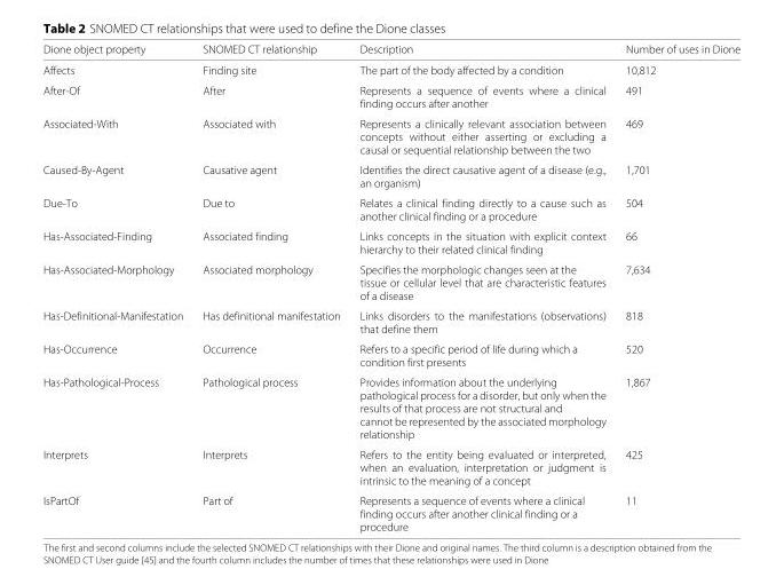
<table><thead><tr><td>Dione object property</td><td>SNOMED CT relationship</td><td>Description</td><td>Number of uses in Dione</td></tr></thead><tbody><tr><td>Affects</td><td>Finding site</td><td>The part of the body affected by a condition</td><td>10,812</td></tr><tr><td>After-Of</td><td>After</td><td>Represents a sequence of events where a clinical finding occurs after another</td><td>491</td></tr><tr><td>Associated-With</td><td>Associated with</td><td>Represents a clinically relevant association between concepts without either asserting or excluding a causal or sequential relationship between the two</td><td>469</td></tr><tr><td>Caused-By-Agent</td><td>Causative agent</td><td>Identifies the direct causative agent of a disease (e.g., an organism)</td><td>1,701</td></tr><tr><td>Due-To</td><td>Due to</td><td>Relates a clinical finding directly to a cause such as another clinical finding or a procedure</td><td>504</td></tr><tr><td>Has-Associated-Finding</td><td>Associated finding</td><td>Links concepts in the situation with explicit context hierarchy to their related clinical finding</td><td>66</td></tr><tr><td>Has-Associated-Morphology</td><td>Associated morphology</td><td>Specifies the morphologic changes seen at the tissue or cellular level that are characteristic features of a disease</td><td>7,634</td></tr><tr><td>Has-Definitional-Manifestation</td><td>Has definitional manifestation</td><td>Links disorders to the manifestations (observations) that define them</td><td>818</td></tr><tr><td>Has-Occurrence</td><td>Occurrence</td><td>Refers to a specific period of life during which a condition first presents</td><td>520</td></tr><tr><td>Has-Pathological-Process</td><td>Pathological process</td><td>Provides information about the underlying pathological process for a disorder, but only when the results of that process are not structural and cannot be represented by the associated morphology relationship</td><td>1,867</td></tr><tr><td>Interprets</td><td>Interprets</td><td>Refers to the entity being evaluated or interpreted, when an evaluation, interpretation or judgment is intrinsic to the meaning of a concept</td><td>425</td></tr><tr><td>IsPartOf</td><td>Part of</td><td>Represents a sequence of events where a clinical finding occurs after another clinical finding or a procedure</td><td>11</td></tr></tbody></table>